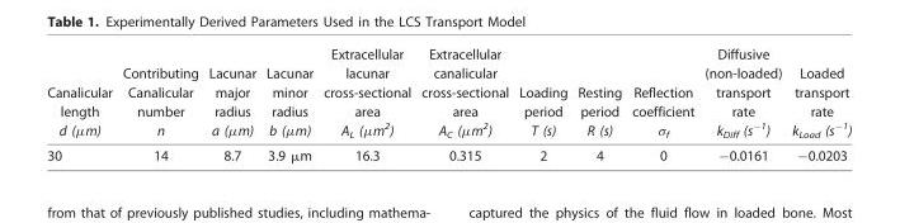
<table><thead><tr><td rowspan="2">Canalicular length d (µm)</td><td rowspan="2">Contributing Canalicular number n</td><td rowspan="2">Lacunar major radius a (µm)</td><td rowspan="2">Lacunar minor radius b (µm)</td><td rowspan="2">Extracellular lacunar cross-sectional area A<sub>L</sub> (µm<sup>2</sup>)</td><td rowspan="2">Extracellular canalicular cross-sectional area A<sub>C</sub> (µm<sup>2</sup>)</td><td rowspan="2">Loading period T (s)</td><td rowspan="2">Resting period R (s)</td><td rowspan="2">Reflection coefficient σ<sub>f</sub></td><td rowspan="2">Diffusive (non-loaded) transport rate k<sub>Diff</sub> (s<sup>−1</sup>)</td><td rowspan="2">Loaded transport rate k<sub>Load</sub> (s<sup>−1</sup>)</td></tr><tr></tr></thead><tbody><tr><td>30</td><td>14</td><td>8.7</td><td>3.9 µm</td><td>16.3</td><td>0.315</td><td>2</td><td>4</td><td>0</td><td>−0.0161</td><td>−0.0203</td></tr></tbody></table>